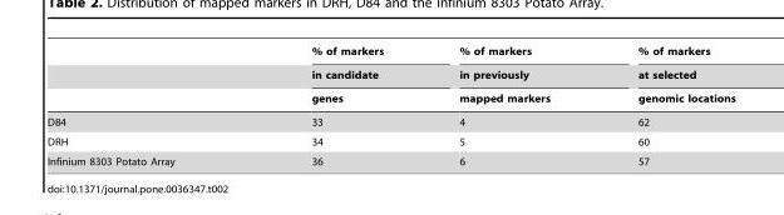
<table><thead><tr><td rowspan="3"></td><td rowspan="3">% of markers in candidate genes</td><td rowspan="3">% of markers in previously mapped markers</td><td rowspan="3">% of markers at selected genomic locations</td></tr><tr></tr><tr></tr></thead><tbody><tr><td>D84</td><td>33</td><td>4</td><td>62</td></tr><tr><td>DRH</td><td>34</td><td>5</td><td>60</td></tr><tr><td>Infinium 8303 Potato Array</td><td>36</td><td>6</td><td>57</td></tr></tbody></table>